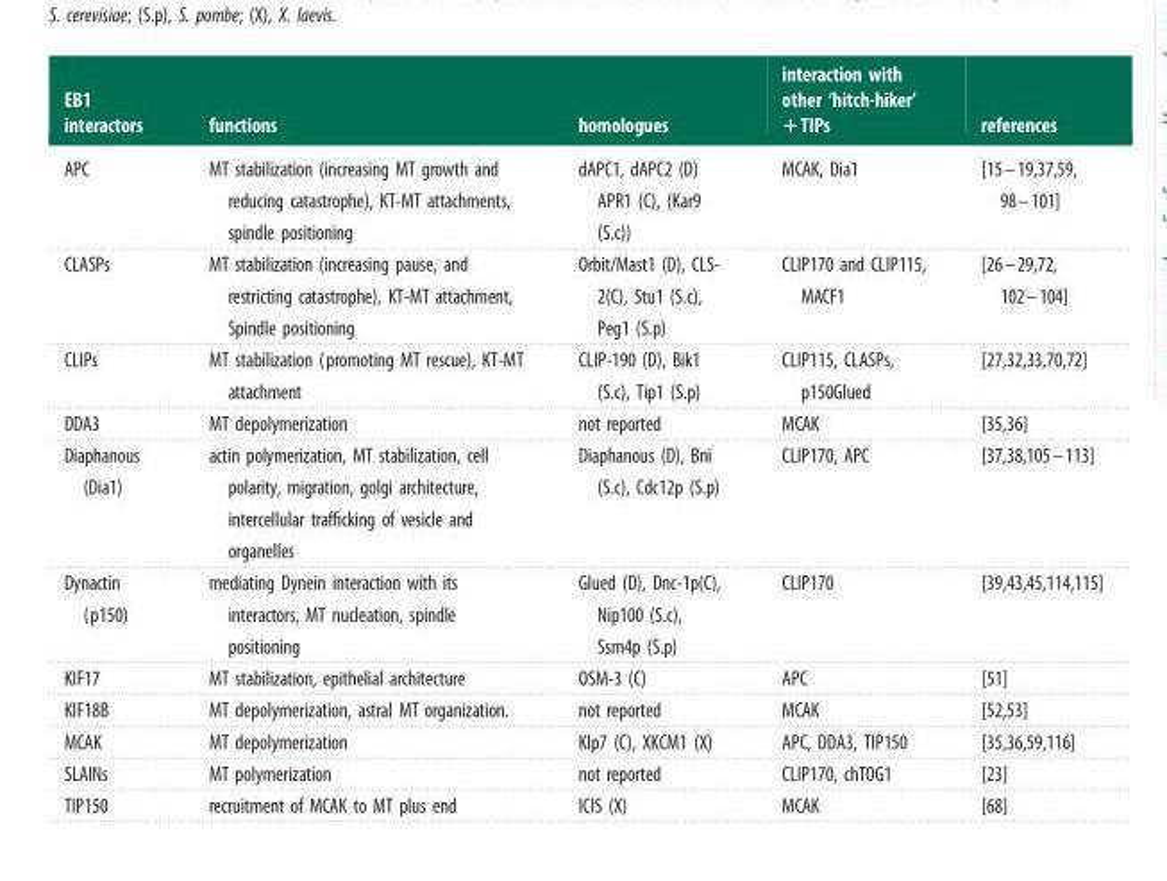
<table><thead><tr><td>EB1 interactors</td><td>functions</td><td>homologues</td><td>interaction with other ‘hitch-hiker’ +TIPs</td><td>references</td></tr></thead><tbody><tr><td>APC</td><td>MT stabilization (increasing MT growth and reducing catastrophe), KT-MT attachments, spindle positioning</td><td>dAPC1, dAPC2 (D) APR1 (C), (Kar9 (S.c))</td><td>MCAK, Dia1</td><td>[15–19,37,59, 98–101]</td></tr><tr><td>CLASPs</td><td>MT stabilization (increasing pause, and restricting catastrophe), KT-MT attachment, Spindle positioning</td><td>Orbit/Mast1 (D), CLS- 2(C), Stu1 (S.c), Peg1 (S.p)</td><td>CLIP170 and CLIP115, MACF1</td><td>[26–29,72, 102–104]</td></tr><tr><td>CLIPs</td><td>MT stabilization (promoting MT rescue), KT-MT attachment</td><td>CLIP-190 (D), Bik1 (S.c), Tip1 (S.p)</td><td>CLIP115, CLASPs, p150Glued</td><td>[27,32,33,70,72]</td></tr><tr><td>DDA3</td><td>MT depolymerization</td><td>not reported</td><td>MCAK</td><td>[35,36]</td></tr><tr><td>Diaphanous (Dia1)</td><td>actin polymerization, MT stabilization, cell polarity, migration, golgi architecture, intercellular trafficking of vesicle and organelles</td><td>Diaphanous (D), Bni (S.c), Cdc12p (S.p)</td><td>CLIP170, APC</td><td>[37,38,105–113]</td></tr><tr><td>Dynactin (p150)</td><td>mediating Dynein interaction with its interactors, MT nucleation, spindle positioning</td><td>Glued (D), Dnc-1p(C), Nip100 (S.c), Ssm4p (S.p)</td><td>CLIP170</td><td>[39,43,45,114,115]</td></tr><tr><td>KIF17</td><td>MT stabilization, epithelial architecture</td><td>OSM-3 (C)</td><td>APC</td><td>[51]</td></tr><tr><td>KIF18B</td><td>MT depolymerization, astral MT organization.</td><td>not reported</td><td>MCAK</td><td>[52,53]</td></tr><tr><td>MCAK</td><td>MT depolymerization</td><td>Klp7 (C), XKCM1 (X)</td><td>APC, DDA3, TIP150</td><td>[35,36,59,116]</td></tr><tr><td>SLAINs</td><td>MT polymerization</td><td>not reported</td><td>CLIP170, chTOG1</td><td>[23]</td></tr><tr><td>TIP150</td><td>recruitment of MCAK to MT plus end</td><td>ICIS (X)</td><td>MCAK</td><td>[68]</td></tr></tbody></table>